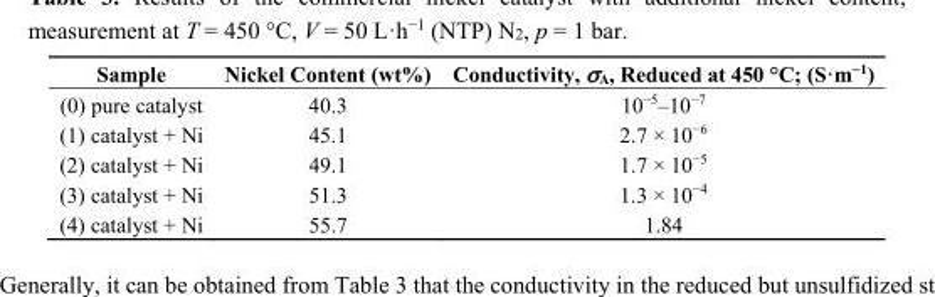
<table><thead><tr><td>Sample</td><td>Nickel Content (wt%)</td><td>Conductivity, σ<sub>A</sub>, Reduced at 450 °C; (S·m<sup>−1</sup>)</td></tr></thead><tbody><tr><td>(0) pure catalyst</td><td>40.3</td><td>10<sup>−5</sup>–10<sup>−7</sup></td></tr><tr><td>(1) catalyst + Ni</td><td>45.1</td><td>2.7 × 10<sup>−6</sup></td></tr><tr><td>(2) catalyst + Ni</td><td>49.1</td><td>1.7 × 10<sup>−5</sup></td></tr><tr><td>(3) catalyst + Ni</td><td>51.3</td><td>1.3 × 10<sup>−4</sup></td></tr><tr><td>(4) catalyst + Ni</td><td>55.7</td><td>1.84</td></tr></tbody></table>